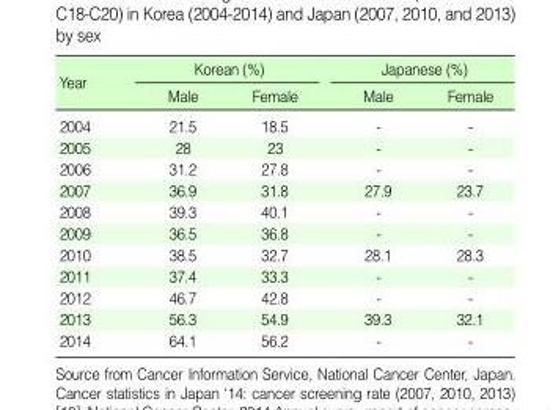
<table><thead><tr><td rowspan="2">Year</td><td colspan="2">Korean (%)</td><td colspan="2">Japanese (%)</td></tr><tr><td>Male</td><td>Female</td><td>Male</td><td>Female</td></tr></thead><tbody><tr><td>2004</td><td>21.5</td><td>18.5</td><td>-</td><td>-</td></tr><tr><td>2005</td><td>28</td><td>23</td><td>-</td><td>-</td></tr><tr><td>2006</td><td>31.2</td><td>27.8</td><td>-</td><td>-</td></tr><tr><td>2007</td><td>36.9</td><td>31.8</td><td>27.9</td><td>23.7</td></tr><tr><td>2008</td><td>39.3</td><td>40.1</td><td>-</td><td>-</td></tr><tr><td>2009</td><td>36.5</td><td>36.8</td><td>-</td><td>-</td></tr><tr><td>2010</td><td>38.5</td><td>32.7</td><td>28.1</td><td>28.3</td></tr><tr><td>2011</td><td>37.4</td><td>33.3</td><td>-</td><td>-</td></tr><tr><td>2012</td><td>46.7</td><td>42.8</td><td>-</td><td>-</td></tr><tr><td>2013</td><td>56.3</td><td>54.9</td><td>39.3</td><td>32.1</td></tr><tr><td>2014</td><td>64.1</td><td>56.2</td><td>-</td><td>-</td></tr></tbody></table>